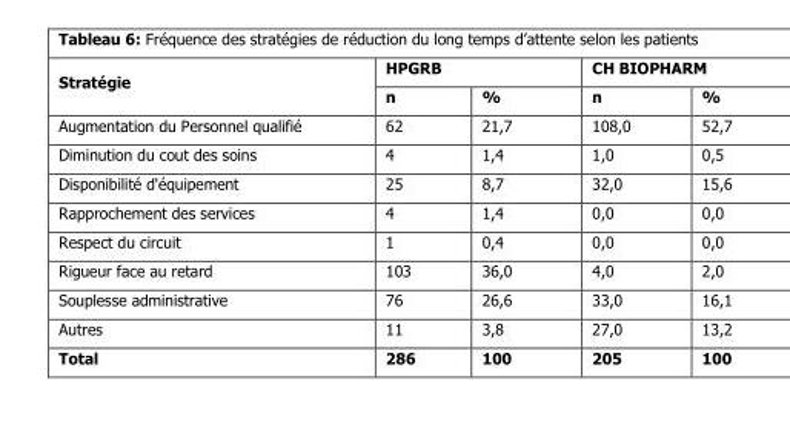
<table><thead><tr><td rowspan="2">Stratégie</td><td colspan="2">HPGRB</td><td colspan="2">CH BIOPHARM</td></tr><tr><td>n</td><td>%</td><td>n</td><td>%</td></tr></thead><tbody><tr><td>Augmentation du Personnel qualifié</td><td>62</td><td>21,7</td><td>108,0</td><td>52,7</td></tr><tr><td>Diminution du cout des soins</td><td>4</td><td>1,4</td><td>1,0</td><td>0,5</td></tr><tr><td>Disponibilité d&#x27;équipement</td><td>25</td><td>8,7</td><td>32,0</td><td>15,6</td></tr><tr><td>Rapprochement des services</td><td>4</td><td>1,4</td><td>0,0</td><td>0,0</td></tr><tr><td>Respect du circuit</td><td>1</td><td>0,4</td><td>0,0</td><td>0,0</td></tr><tr><td>Rigueur face au retard</td><td>103</td><td>36,0</td><td>4,0</td><td>2,0</td></tr><tr><td>Souplesse administrative</td><td>76</td><td>26,6</td><td>33,0</td><td>16,1</td></tr><tr><td>Autres</td><td>11</td><td>3,8</td><td>27,0</td><td>13,2</td></tr><tr><td>Total</td><td>286</td><td>100</td><td>205</td><td>100</td></tr></tbody></table>